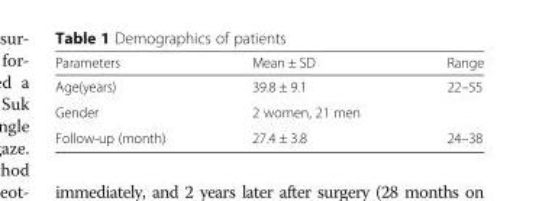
<table><thead><tr><td>Parameters</td><td>Mean ± SD</td><td>Range</td></tr></thead><tbody><tr><td>Age(years)</td><td>39.8 ± 9.1</td><td>22–55</td></tr><tr><td>Gender</td><td>2 women, 21 men</td><td></td></tr><tr><td>Follow-up (month)</td><td>27.4 ± 3.8</td><td>24–38</td></tr></tbody></table>